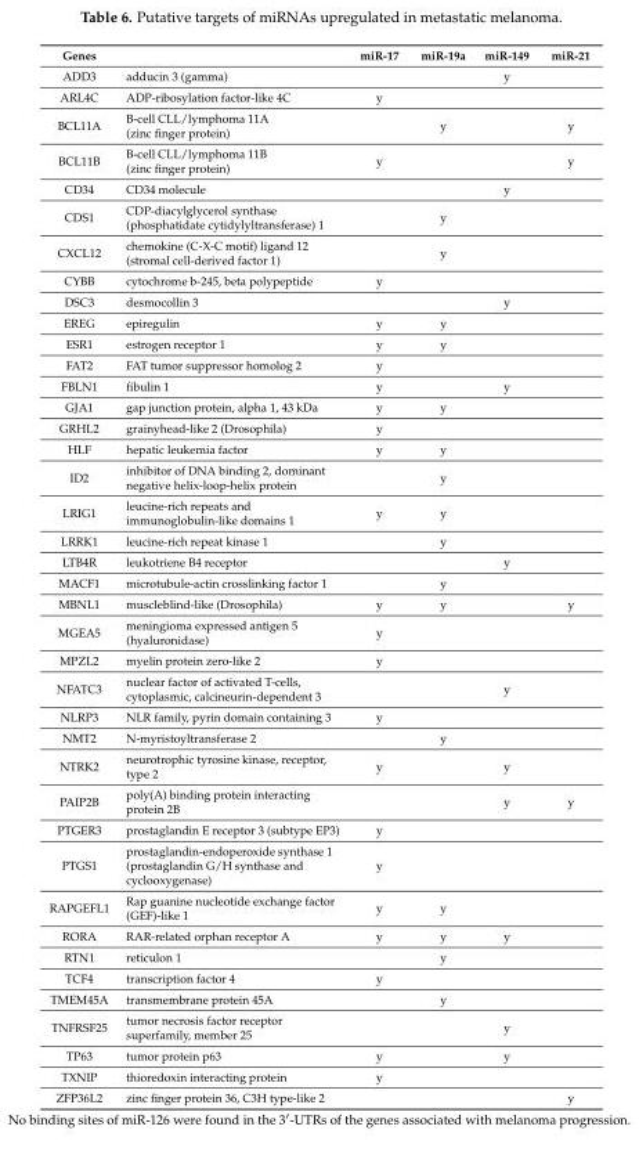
<table><thead><tr><td>Genes</td><td></td><td>miR-17</td><td>miR-19a</td><td>miR-149</td><td>miR-21</td></tr></thead><tbody><tr><td>ADD3</td><td>adducin 3 (gamma)</td><td></td><td></td><td>y</td><td></td></tr><tr><td>ARL4C</td><td>ADP-ribosylation factor-like 4C</td><td>y</td><td></td><td></td><td></td></tr><tr><td>BCL11A</td><td>B-cell CLL/lymphoma 11A (zinc finger protein)</td><td></td><td>y</td><td></td><td>y</td></tr><tr><td>BCL11B</td><td>B-cell CLL/lymphoma 11B (zinc finger protein)</td><td>y</td><td></td><td></td><td>y</td></tr><tr><td>CD34</td><td>CD34 molecule</td><td></td><td></td><td>y</td><td></td></tr><tr><td>CDS1</td><td>CDP-diacylglycerol synthase (phosphatidate cytidylyltransferase) 1</td><td></td><td>y</td><td></td><td></td></tr><tr><td>CXCL12</td><td>chemokine (C-X-C motif) ligand 12 (stromal cell-derived factor 1)</td><td></td><td>y</td><td></td><td></td></tr><tr><td>CYBB</td><td>cytochrome b-245, beta polypeptide</td><td>y</td><td></td><td></td><td></td></tr><tr><td>DSC3</td><td>desmocollin 3</td><td></td><td></td><td>y</td><td></td></tr><tr><td>EREG</td><td>epiregulin</td><td>y</td><td>y</td><td></td><td></td></tr><tr><td>ESR1</td><td>estrogen receptor 1</td><td>y</td><td>y</td><td></td><td></td></tr><tr><td>FAT2</td><td>FAT tumor suppressor homolog 2</td><td>y</td><td></td><td></td><td></td></tr><tr><td>FBLN1</td><td>fibulin 1</td><td>y</td><td></td><td>y</td><td></td></tr><tr><td>GJA1</td><td>gap junction protein, alpha 1, 43 kDa</td><td>y</td><td>y</td><td></td><td></td></tr><tr><td>GRHL2</td><td>grainyhead-like 2 (Drosophila)</td><td>y</td><td></td><td></td><td></td></tr><tr><td>HLF</td><td>hepatic leukemia factor</td><td>y</td><td>y</td><td></td><td></td></tr><tr><td>ID2</td><td>inhibitor of DNA binding 2, dominant negative helix-loop-helix protein</td><td></td><td>y</td><td></td><td></td></tr><tr><td>LRIG1</td><td>leucine-rich repeats and immunoglobulin-like domains 1</td><td>y</td><td>y</td><td></td><td></td></tr><tr><td>LRRK1</td><td>leucine-rich repeat kinase 1</td><td></td><td>y</td><td></td><td></td></tr><tr><td>LTB4R</td><td>leukotriene B4 receptor</td><td></td><td></td><td>y</td><td></td></tr><tr><td>MACF1</td><td>microtubule-actin crosslinking factor 1</td><td></td><td>y</td><td></td><td></td></tr><tr><td>MBNL1</td><td>muscleblind-like (Drosophila)</td><td>y</td><td>y</td><td></td><td>y</td></tr><tr><td>MGEA5</td><td>meningioma expressed antigen 5 (hyaluronidase)</td><td>y</td><td></td><td></td><td></td></tr><tr><td>MPZL2</td><td>myelin protein zero-like 2</td><td>y</td><td></td><td></td><td></td></tr><tr><td>NFATC3</td><td>nuclear factor of activated T-cells, cytoplasmic, calcineurin-dependent 3</td><td></td><td></td><td>y</td><td></td></tr><tr><td>NLRP3</td><td>NLR family, pyrin domain containing 3</td><td>y</td><td></td><td></td><td></td></tr><tr><td>NMT2</td><td>N-myristoyltransferase 2</td><td></td><td>y</td><td></td><td></td></tr><tr><td>NTRK2</td><td>neurotrophic tyrosine kinase, receptor, type 2</td><td>y</td><td></td><td>y</td><td></td></tr><tr><td>PAIP2B</td><td>poly(A) binding protein interacting protein 2B</td><td></td><td></td><td>y</td><td>y</td></tr><tr><td>PTGER3</td><td>prostaglandin E receptor 3 (subtype EP3)</td><td>y</td><td></td><td></td><td></td></tr><tr><td>PTGS1</td><td>prostaglandin-endoperoxide synthase 1 (prostaglandin G/H synthase and cyclooxygenase)</td><td>y</td><td></td><td></td><td></td></tr><tr><td>RAPGEFL1</td><td>Rap guanine nucleotide exchange factor (GEF)-like 1</td><td>y</td><td>y</td><td></td><td></td></tr><tr><td>RORA</td><td>RAR-related orphan receptor A</td><td>y</td><td>y</td><td>y</td><td></td></tr><tr><td>RTN1</td><td>reticulon 1</td><td></td><td>y</td><td></td><td></td></tr><tr><td>TCF4</td><td>transcription factor 4</td><td>y</td><td></td><td></td><td></td></tr><tr><td>TMEM45A</td><td>transmembrane protein 45A</td><td></td><td>y</td><td></td><td></td></tr><tr><td>TNFRSF25</td><td>tumor necrosis factor receptor superfamily, member 25</td><td></td><td></td><td>y</td><td></td></tr><tr><td>TP63</td><td>tumor protein p63</td><td>y</td><td></td><td>y</td><td></td></tr><tr><td>TXNIP</td><td>thioredoxin interacting protein</td><td>y</td><td></td><td></td><td></td></tr><tr><td>ZFP36L2</td><td>zinc finger protein 36, C3H type-like 2</td><td></td><td></td><td></td><td>y</td></tr></tbody></table>